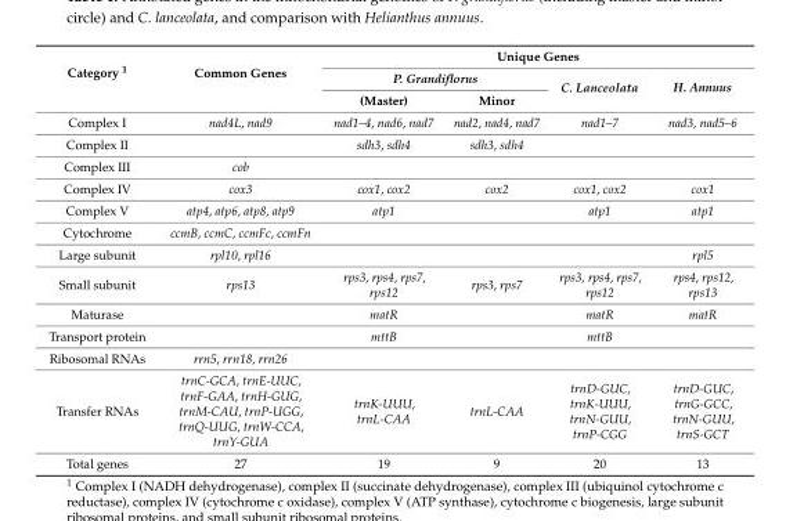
<table><thead><tr><td rowspan="3">Category <sup>1</sup></td><td rowspan="3">Common Genes</td><td colspan="4">Unique Genes</td></tr><tr><td colspan="2">P. Grandiflorus</td><td rowspan="2">C. Lanceolata</td><td rowspan="2">H. Annuus</td></tr><tr><td>(Master)</td><td>Minor</td></tr></thead><tbody><tr><td>Complex I</td><td>nad4L, nad9</td><td>nad1–4, nad6, nad7</td><td>nad2, nad4, nad7</td><td>nad1–7</td><td>nad3, nad5–6</td></tr><tr><td>Complex II</td><td></td><td>sdh3, sdh4</td><td>sdh3, sdh4</td><td></td><td></td></tr><tr><td>Complex III</td><td>cob</td><td></td><td></td><td></td><td></td></tr><tr><td>Complex IV</td><td>cox3</td><td>cox1, cox2</td><td>cox2</td><td>cox1, cox2</td><td>cox1</td></tr><tr><td>Complex V</td><td>atp4, atp6, atp8, atp9</td><td>atp1</td><td></td><td>atp1</td><td>atp1</td></tr><tr><td>Cytochrome</td><td>ccmB, ccmC, ccmFc, ccmFn</td><td></td><td></td><td></td><td></td></tr><tr><td>Large subunit</td><td>rpl10, rpl16</td><td></td><td></td><td></td><td>rpl5</td></tr><tr><td>Small subunit</td><td>rps13</td><td>rps3, rps4, rps7, rps12</td><td>rps3, rps7</td><td>rps3, rps4, rps7, rps12</td><td>rps4, rps12, rps13</td></tr><tr><td>Maturase</td><td></td><td>matR</td><td></td><td>matR</td><td>matR</td></tr><tr><td>Transport protein</td><td></td><td>mttB</td><td></td><td>mttB</td><td></td></tr><tr><td>Ribosomal RNAs</td><td>rrn5, rrn18, rrn26</td><td></td><td></td><td></td><td></td></tr><tr><td>Transfer RNAs</td><td>trnC-GCA, trnE-UUC, trnF-GAA, trnH-GUG, trnM-CAU, trnP-UGG, trnQ-UUG, trnW-CCA, trnY-GUA</td><td>trnK-UUU, trnL-CAA</td><td>trnL-CAA</td><td>trnD-GUC, trnK-UUU, trnN-GUU, trnP-CGG</td><td>trnD-GUC, trnG-GCC, trnN-GUU, trnS-GCT</td></tr><tr><td>Total genes</td><td>27</td><td>19</td><td>9</td><td>20</td><td>13</td></tr></tbody></table>